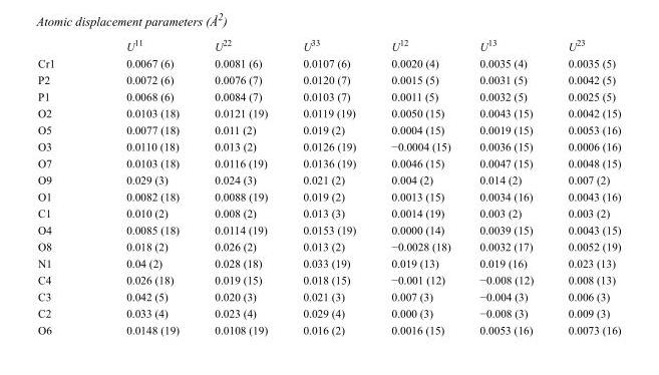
<table><thead><tr><td></td><td>U<sup>11</sup></td><td>U<sup>22</sup></td><td>U<sup>33</sup></td><td>U<sup>12</sup></td><td>U<sup>13</sup></td><td>U<sup>23</sup></td></tr></thead><tbody><tr><td>Cr1</td><td>0.0067 (6)</td><td>0.0081 (6)</td><td>0.0107 (6)</td><td>0.0020 (4)</td><td>0.0035 (4)</td><td>0.0035 (5)</td></tr><tr><td>P2</td><td>0.0072 (6)</td><td>0.0076 (7)</td><td>0.0120 (7)</td><td>0.0015 (5)</td><td>0.0031 (5)</td><td>0.0042 (5)</td></tr><tr><td>P1</td><td>0.0068 (6)</td><td>0.0084 (7)</td><td>0.0103 (7)</td><td>0.0011 (5)</td><td>0.0032 (5)</td><td>0.0025 (5)</td></tr><tr><td>O2</td><td>0.0103 (18)</td><td>0.0121 (19)</td><td>0.0119 (19)</td><td>0.0050 (15)</td><td>0.0043 (15)</td><td>0.0042 (15)</td></tr><tr><td>O5</td><td>0.0077 (18)</td><td>0.011 (2)</td><td>0.019 (2)</td><td>0.0004 (15)</td><td>0.0019 (15)</td><td>0.0053 (16)</td></tr><tr><td>O3</td><td>0.0110 (18)</td><td>0.013 (2)</td><td>0.0126 (19)</td><td>−0.0004 (15)</td><td>0.0036 (15)</td><td>0.0006 (16)</td></tr><tr><td>O7</td><td>0.0103 (18)</td><td>0.0116 (19)</td><td>0.0136 (19)</td><td>0.0046 (15)</td><td>0.0047 (15)</td><td>0.0048 (15)</td></tr><tr><td>O9</td><td>0.029 (3)</td><td>0.024 (3)</td><td>0.021 (2)</td><td>0.004 (2)</td><td>0.014 (2)</td><td>0.007 (2)</td></tr><tr><td>O1</td><td>0.0082 (18)</td><td>0.0088 (19)</td><td>0.019 (2)</td><td>0.0013 (15)</td><td>0.0034 (16)</td><td>0.0043 (16)</td></tr><tr><td>C1</td><td>0.010 (2)</td><td>0.008 (2)</td><td>0.013 (3)</td><td>0.0014 (19)</td><td>0.003 (2)</td><td>0.003 (2)</td></tr><tr><td>O4</td><td>0.0085 (18)</td><td>0.0114 (19)</td><td>0.0153 (19)</td><td>0.0000 (14)</td><td>0.0039 (15)</td><td>0.0043 (15)</td></tr><tr><td>O8</td><td>0.018 (2)</td><td>0.026 (2)</td><td>0.013 (2)</td><td>−0.0028 (18)</td><td>0.0032 (17)</td><td>0.0052 (19)</td></tr><tr><td>N1</td><td>0.04 (2)</td><td>0.028 (18)</td><td>0.033 (19)</td><td>0.019 (13)</td><td>0.019 (16)</td><td>0.023 (13)</td></tr><tr><td>C4</td><td>0.026 (18)</td><td>0.019 (15)</td><td>0.018 (15)</td><td>−0.001 (12)</td><td>−0.008 (12)</td><td>0.008 (13)</td></tr><tr><td>C3</td><td>0.042 (5)</td><td>0.020 (3)</td><td>0.021 (3)</td><td>0.007 (3)</td><td>−0.004 (3)</td><td>0.006 (3)</td></tr><tr><td>C2</td><td>0.033 (4)</td><td>0.023 (4)</td><td>0.029 (4)</td><td>0.000 (3)</td><td>−0.008 (3)</td><td>0.009 (3)</td></tr><tr><td>O6</td><td>0.0148 (19)</td><td>0.0108 (19)</td><td>0.016 (2)</td><td>0.0016 (15)</td><td>0.0053 (16)</td><td>0.0073 (16)</td></tr></tbody></table>